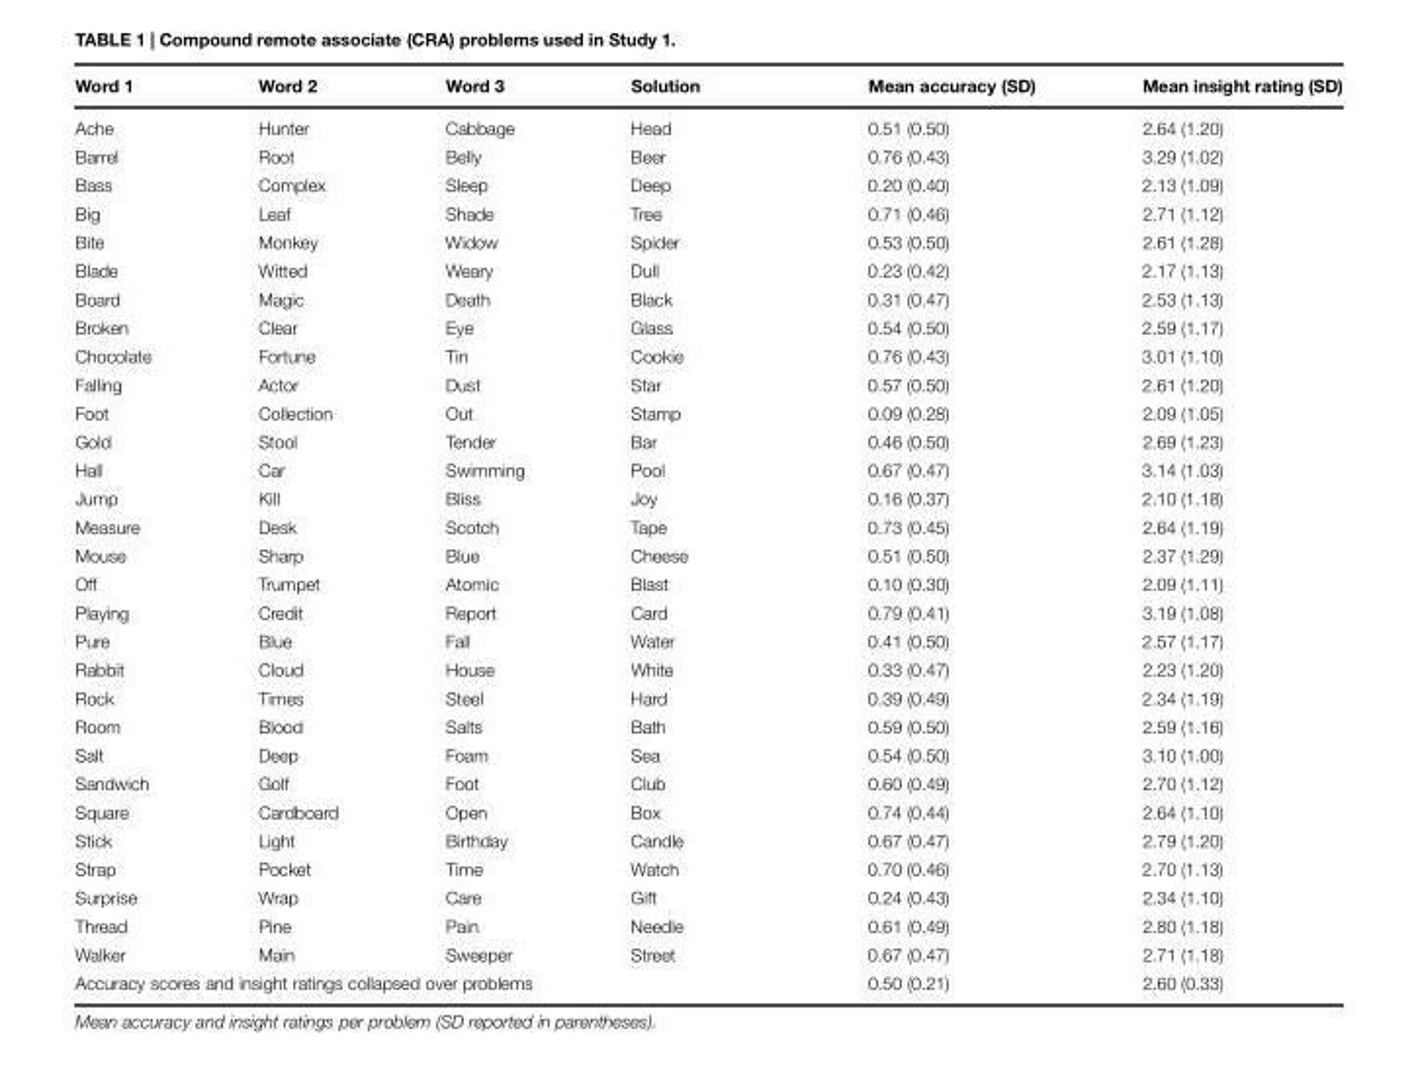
<table><thead><tr><td>Word 1</td><td>Word 2</td><td>Word 3</td><td>Solution</td><td>Mean accuracy (SD)</td><td>Mean insight rating (SD)</td></tr></thead><tbody><tr><td>Ache</td><td>Hunter</td><td>Cabbage</td><td>Head</td><td>0.51 (0.50)</td><td>2.64 (1.20)</td></tr><tr><td>Barrel</td><td>Root</td><td>Belly</td><td>Beer</td><td>0.76 (0.43)</td><td>3.29 (1.02)</td></tr><tr><td>Bass</td><td>Complex</td><td>Sleep</td><td>Deep</td><td>0.20 (0.40)</td><td>2.13 (1.09)</td></tr><tr><td>Big</td><td>Leaf</td><td>Shade</td><td>Tree</td><td>0.71 (0.46)</td><td>2.71 (1.12)</td></tr><tr><td>Bite</td><td>Monkey</td><td>Widow</td><td>Spider</td><td>0.53 (0.50)</td><td>2.61 (1.28)</td></tr><tr><td>Blade</td><td>Witted</td><td>Weary</td><td>Dull</td><td>0.23 (0.42)</td><td>2.17 (1.13)</td></tr><tr><td>Board</td><td>Magic</td><td>Death</td><td>Black</td><td>0.31 (0.47)</td><td>2.53 (1.13)</td></tr><tr><td>Broken</td><td>Clear</td><td>Eye</td><td>Glass</td><td>0.54 (0.50)</td><td>2.59 (1.17)</td></tr><tr><td>Chocolate</td><td>Fortune</td><td>Tin</td><td>Cookie</td><td>0.76 (0.43)</td><td>3.01 (1.10)</td></tr><tr><td>Falling</td><td>Actor</td><td>Dust</td><td>Star</td><td>0.57 (0.50)</td><td>2.61 (1.20)</td></tr><tr><td>Foot</td><td>Collection</td><td>Out</td><td>Stamp</td><td>0.09 (0.28)</td><td>2.09 (1.05)</td></tr><tr><td>Gold</td><td>Stool</td><td>Tender</td><td>Bar</td><td>0.46 (0.50)</td><td>2.69 (1.23)</td></tr><tr><td>Hall</td><td>Car</td><td>Swimming</td><td>Pool</td><td>0.67 (0.47)</td><td>3.14 (1.03)</td></tr><tr><td>Jump</td><td>Kill</td><td>Bliss</td><td>Joy</td><td>0.16 (0.37)</td><td>2.10 (1.18)</td></tr><tr><td>Measure</td><td>Desk</td><td>Scotch</td><td>Tape</td><td>0.73 (0.45)</td><td>2.64 (1.19)</td></tr><tr><td>Mouse</td><td>Sharp</td><td>Blue</td><td>Cheese</td><td>0.51 (0.50)</td><td>2.37 (1.29)</td></tr><tr><td>Off</td><td>Trumpet</td><td>Atomic</td><td>Blast</td><td>0.10 (0.30)</td><td>2.09 (1.11)</td></tr><tr><td>Playing</td><td>Credit</td><td>Report</td><td>Card</td><td>0.79 (0.41)</td><td>3.19 (1.08)</td></tr><tr><td>Pure</td><td>Blue</td><td>Fall</td><td>Water</td><td>0.41 (0.50)</td><td>2.57 (1.17)</td></tr><tr><td>Rabbit</td><td>Cloud</td><td>House</td><td>White</td><td>0.33 (0.47)</td><td>2.23 (1.20)</td></tr><tr><td>Rock</td><td>Times</td><td>Steel</td><td>Hard</td><td>0.39 (0.49)</td><td>2.34 (1.19)</td></tr><tr><td>Room</td><td>Blood</td><td>Salts</td><td>Bath</td><td>0.59 (0.50)</td><td>2.59 (1.16)</td></tr><tr><td>Salt</td><td>Deep</td><td>Foam</td><td>Sea</td><td>0.54 (0.50)</td><td>3.10 (1.00)</td></tr><tr><td>Sandwich</td><td>Golf</td><td>Foot</td><td>Club</td><td>0.60 (0.49)</td><td>2.70 (1.12)</td></tr><tr><td>Square</td><td>Cardboard</td><td>Open</td><td>Box</td><td>0.74 (0.44)</td><td>2.64 (1.10)</td></tr><tr><td>Stick</td><td>Light</td><td>Birthday</td><td>Candle</td><td>0.67 (0.47)</td><td>2.79 (1.20)</td></tr><tr><td>Strap</td><td>Pocket</td><td>Time</td><td>Watch</td><td>0.70 (0.46)</td><td>2.70 (1.13)</td></tr><tr><td>Surprise</td><td>Wrap</td><td>Care</td><td>Gift</td><td>0.24 (0.43)</td><td>2.34 (1.10)</td></tr><tr><td>Thread</td><td>Pine</td><td>Pain</td><td>Needle</td><td>0.61 (0.49)</td><td>2.80 (1.18)</td></tr><tr><td>Walker</td><td>Main</td><td>Sweeper</td><td>Street</td><td>0.67 (0.47)</td><td>2.71 (1.18)</td></tr><tr><td colspan="4">Accuracy scores and insight ratings collapsed over problems</td><td>0.50 (0.21)</td><td>2.60 (0.33)</td></tr></tbody></table>